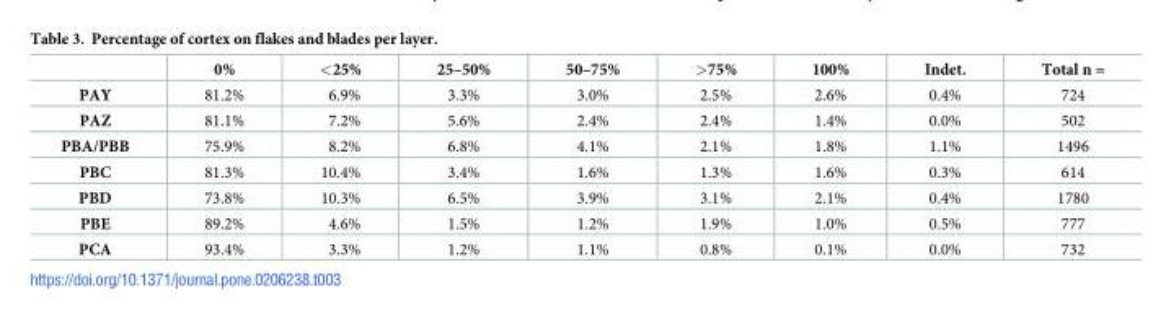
<table><thead><tr><td></td><td>0%</td><td>&lt;25%</td><td>25–50%</td><td>50–75%</td><td>&gt;75%</td><td>100%</td><td>Indet.</td><td>Total n =</td></tr></thead><tbody><tr><td>PAY</td><td>81.2%</td><td>6.9%</td><td>3.3%</td><td>3.0%</td><td>2.5%</td><td>2.6%</td><td>0.4%</td><td>724</td></tr><tr><td>PAZ</td><td>81.1%</td><td>7.2%</td><td>5.6%</td><td>2.4%</td><td>2.4%</td><td>1.4%</td><td>0.0%</td><td>502</td></tr><tr><td>PBA/PBB</td><td>75.9%</td><td>8.2%</td><td>6.8%</td><td>4.1%</td><td>2.1%</td><td>1.8%</td><td>1.1%</td><td>1496</td></tr><tr><td>PBC</td><td>81.3%</td><td>10.4%</td><td>3.4%</td><td>1.6%</td><td>1.3%</td><td>1.6%</td><td>0.3%</td><td>614</td></tr><tr><td>PBD</td><td>73.8%</td><td>10.3%</td><td>6.5%</td><td>3.9%</td><td>3.1%</td><td>2.1%</td><td>0.4%</td><td>1780</td></tr><tr><td>PBE</td><td>89.2%</td><td>4.6%</td><td>1.5%</td><td>1.2%</td><td>1.9%</td><td>1.0%</td><td>0.5%</td><td>777</td></tr><tr><td>PCA</td><td>93.4%</td><td>3.3%</td><td>1.2%</td><td>1.1%</td><td>0.8%</td><td>0.1%</td><td>0.0%</td><td>732</td></tr></tbody></table>